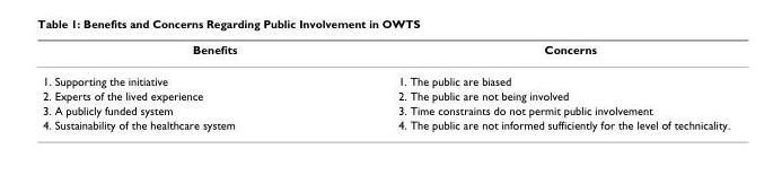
<table><thead><tr><td>Benefits</td><td>Concerns</td></tr></thead><tbody><tr><td>1. Supporting the initiative</td><td>1. The public are biased</td></tr><tr><td>2. Experts of the lived experience</td><td>2. The public are not being involved</td></tr><tr><td>3. A publicly funded system</td><td>3. Time constraints do not permit public involvement</td></tr><tr><td>4. Sustainability of the healthcare system</td><td>4. The public are not informed sufficiently for the level of technicality.</td></tr></tbody></table>